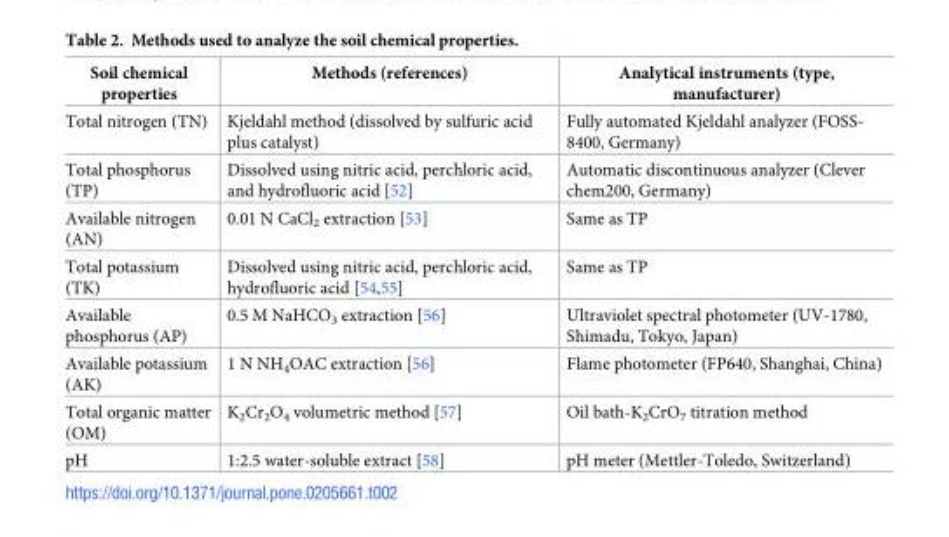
<table><thead><tr><td>Soil chemical properties</td><td>Methods (references)</td><td>Analytical instruments (type, manufacturer)</td></tr></thead><tbody><tr><td>Total nitrogen (TN)</td><td>Kjeldahl method (dissolved by sulfuric acid plus catalyst)</td><td>Fully automated Kjeldahl analyzer (FOSS- 8400, Germany)</td></tr><tr><td>Total phosphorus (TP)</td><td>Dissolved using nitric acid, perchloric acid, and hydrofluoric acid [52]</td><td>Automatic discontinuous analyzer (Clever chem200, Germany)</td></tr><tr><td>Available nitrogen (AN)</td><td>0.01 N CaCl<sub>2</sub> extraction [53]</td><td>Same as TP</td></tr><tr><td>Total potassium (TK)</td><td>Dissolved using nitric acid, perchloric acid, hydrofluoric acid [54,55]</td><td>Same as TP</td></tr><tr><td>Available phosphorus (AP)</td><td>0.5 M NaHCO<sub>3</sub> extraction [56]</td><td>Ultraviolet spectral photometer (UV-1780, Shimadu, Tokyo, Japan)</td></tr><tr><td>Available potassium (AK)</td><td>1 N NH<sub>4</sub>OAC extraction [56]</td><td>Flame photometer (FP640, Shanghai, China)</td></tr><tr><td>Total organic matter (OM)</td><td>K<sub>2</sub>Cr<sub>2</sub>O<sub>4</sub> volumetric method [57]</td><td>Oil bath-K<sub>2</sub>CrO<sub>7</sub> titration method</td></tr><tr><td>pH</td><td>1:2.5 water-soluble extract [58]</td><td>pH meter (Mettler-Toledo, Switzerland)</td></tr></tbody></table>